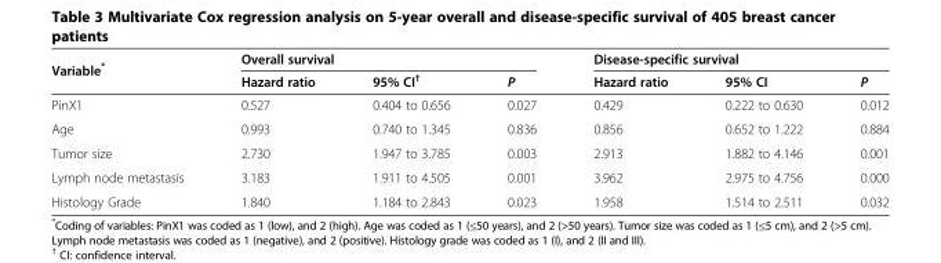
<table><thead><tr><td rowspan="2">Variable*</td><td colspan="3">Overall survival</td><td colspan="3">Disease-specific survival</td></tr><tr><td>Hazard ratio</td><td>95% CI<sup>†</sup></td><td>P</td><td>Hazard ratio</td><td>95% CI</td><td>P</td></tr></thead><tbody><tr><td>PinX1</td><td>0.527</td><td>0.404 to 0.656</td><td>0.027</td><td>0.429</td><td>0.222 to 0.630</td><td>0.012</td></tr><tr><td>Age</td><td>0.993</td><td>0.740 to 1.345</td><td>0.836</td><td>0.856</td><td>0.652 to 1.222</td><td>0.884</td></tr><tr><td>Tumor size</td><td>2.730</td><td>1.947 to 3.785</td><td>0.003</td><td>2.913</td><td>1.882 to 4.146</td><td>0.001</td></tr><tr><td>Lymph node metastasis</td><td>3.183</td><td>1.911 to 4.505</td><td>0.001</td><td>3.962</td><td>2.975 to 4.756</td><td>0.000</td></tr><tr><td>Histology Grade</td><td>1.840</td><td>1.184 to 2.843</td><td>0.023</td><td>1.958</td><td>1.514 to 2.511</td><td>0.032</td></tr></tbody></table>